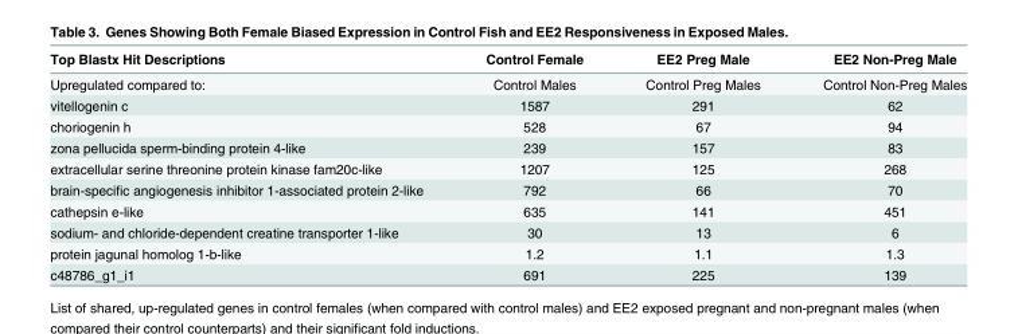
<table><thead><tr><td>Top Blastx Hit Descriptions</td><td>Control Female</td><td>EE2 Preg Male</td><td>EE2 Non-Preg Male</td></tr></thead><tbody><tr><td>Upregulated compared to:</td><td>Control Males</td><td>Control Preg Males</td><td>Control Non-Preg Males</td></tr><tr><td>vitellogenin c</td><td>1587</td><td>291</td><td>62</td></tr><tr><td>choriogenin h</td><td>528</td><td>67</td><td>94</td></tr><tr><td>zona pellucida sperm-binding protein 4-like</td><td>239</td><td>157</td><td>83</td></tr><tr><td>extracellular serine threonine protein kinase fam20c-like</td><td>1207</td><td>125</td><td>268</td></tr><tr><td>brain-specific angiogenesis inhibitor 1-associated protein 2-like</td><td>792</td><td>66</td><td>70</td></tr><tr><td>cathepsin e-like</td><td>635</td><td>141</td><td>451</td></tr><tr><td>sodium- and chloride-dependent creatine transporter 1-like</td><td>30</td><td>13</td><td>6</td></tr><tr><td>protein jagunal homolog 1-b-like</td><td>1.2</td><td>1.1</td><td>1.3</td></tr><tr><td>c48786_g1_i1</td><td>691</td><td>225</td><td>139</td></tr></tbody></table>